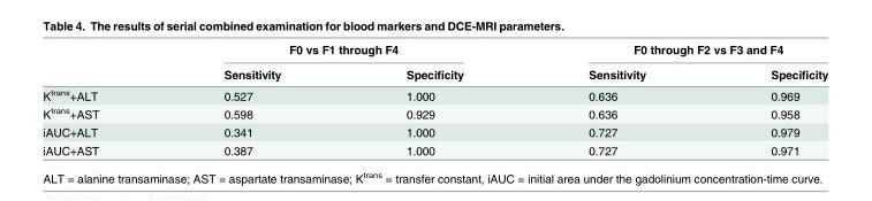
<table><thead><tr><td rowspan="2"></td><td colspan="2">F0 vs F1 through F4</td><td colspan="2">F0 through F2 vs F3 and F4</td></tr><tr><td>Sensitivity</td><td>Specificity</td><td>Sensitivity</td><td>Specificity</td></tr></thead><tbody><tr><td>K<sup>trans</sup>+ALT</td><td>0.527</td><td>1.000</td><td>0.636</td><td>0.969</td></tr><tr><td>K<sup>trans</sup>+AST</td><td>0.598</td><td>0.929</td><td>0.636</td><td>0.958</td></tr><tr><td>iAUC+ALT</td><td>0.341</td><td>1.000</td><td>0.727</td><td>0.979</td></tr><tr><td>iAUC+AST</td><td>0.387</td><td>1.000</td><td>0.727</td><td>0.971</td></tr></tbody></table>